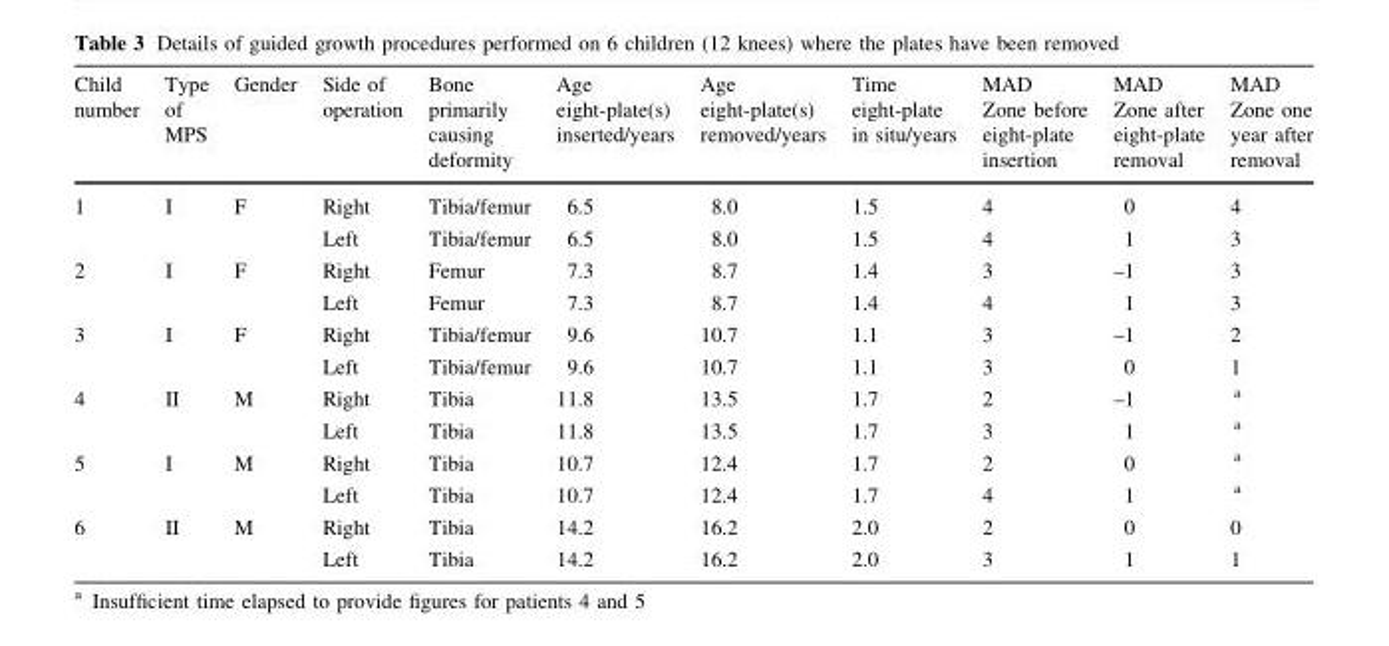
<table><thead><tr><td>Child number</td><td>Type of MPS</td><td>Gender</td><td>Side of operation</td><td>Bone primarily causing deformity</td><td>Age eight-plate(s) inserted/years</td><td>Age eight-plate(s) removed/years</td><td>Time eight-plate in situ/years</td><td>MAD Zone before eight-plate insertion</td><td>MAD Zone after eight-plate removal</td><td>MAD Zone one year after removal</td></tr></thead><tbody><tr><td rowspan="2">1</td><td rowspan="2">I</td><td rowspan="2">F</td><td>Right</td><td>Tibia/femur</td><td>6.5</td><td>8.0</td><td>1.5</td><td>4</td><td>0</td><td>4</td></tr><tr><td>Left</td><td>Tibia/femur</td><td>6.5</td><td>8.0</td><td>1.5</td><td>4</td><td>1</td><td>3</td></tr><tr><td rowspan="2">2</td><td rowspan="2">I</td><td rowspan="2">F</td><td>Right</td><td>Femur</td><td>7.3</td><td>8.7</td><td>1.4</td><td>3</td><td>–1</td><td>3</td></tr><tr><td>Left</td><td>Femur</td><td>7.3</td><td>8.7</td><td>1.4</td><td>4</td><td>1</td><td>3</td></tr><tr><td rowspan="2">3</td><td rowspan="2">I</td><td rowspan="2">F</td><td>Right</td><td>Tibia/femur</td><td>9.6</td><td>10.7</td><td>1.1</td><td>3</td><td>–1</td><td>2</td></tr><tr><td>Left</td><td>Tibia/femur</td><td>9.6</td><td>10.7</td><td>1.1</td><td>3</td><td>0</td><td>1</td></tr><tr><td rowspan="2">4</td><td rowspan="2">II</td><td rowspan="2">M</td><td>Right</td><td>Tibia</td><td>11.8</td><td>13.5</td><td>1.7</td><td>2</td><td>–1</td><td><sup>a</sup></td></tr><tr><td>Left</td><td>Tibia</td><td>11.8</td><td>13.5</td><td>1.7</td><td>3</td><td>1</td><td><sup>a</sup></td></tr><tr><td rowspan="2">5</td><td rowspan="2">I</td><td rowspan="2">M</td><td>Right</td><td>Tibia</td><td>10.7</td><td>12.4</td><td>1.7</td><td>2</td><td>0</td><td><sup>a</sup></td></tr><tr><td>Left</td><td>Tibia</td><td>10.7</td><td>12.4</td><td>1.7</td><td>4</td><td>1</td><td><sup>a</sup></td></tr><tr><td rowspan="2">6</td><td rowspan="2">II</td><td rowspan="2">M</td><td>Right</td><td>Tibia</td><td>14.2</td><td>16.2</td><td>2.0</td><td>2</td><td>0</td><td>0</td></tr><tr><td>Left</td><td>Tibia</td><td>14.2</td><td>16.2</td><td>2.0</td><td>3</td><td>1</td><td>1</td></tr></tbody></table>